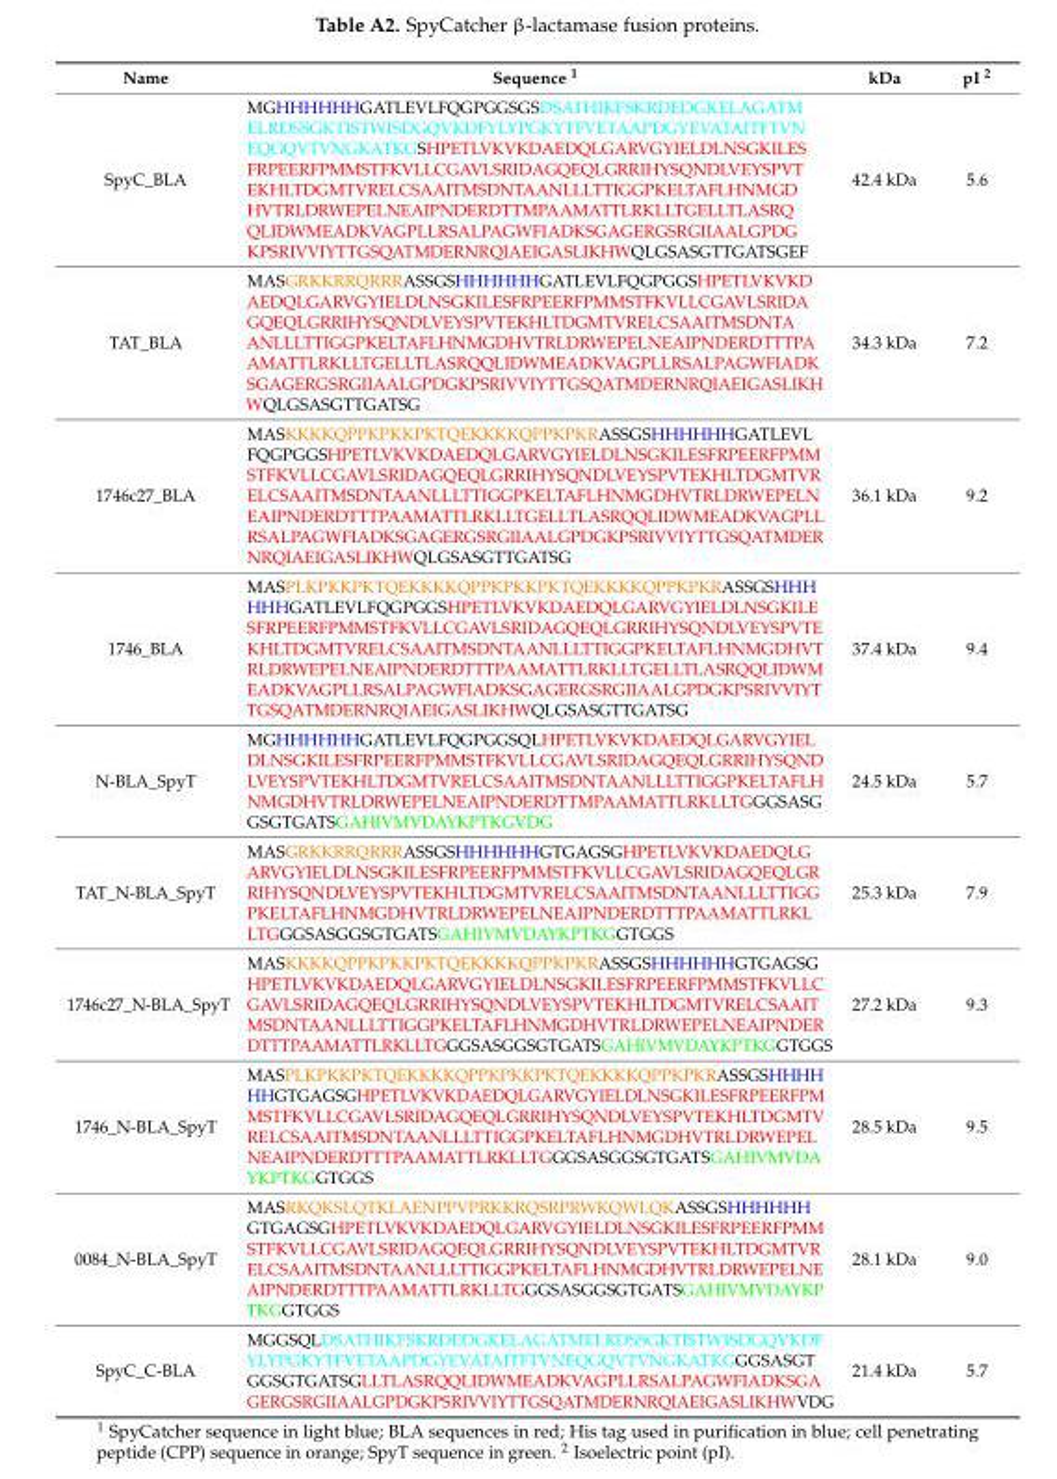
<table><thead><tr><td>Name</td><td>Sequence <sup>1</sup></td><td>kDa</td><td>pI <sup>2</sup></td></tr></thead><tbody><tr><td>SpyC_BLA</td><td>MGHHHHHHGATLEVLFQGPGGSGSDSATHIKFSKRDEDGKELAGATM ELRDSSGKTISTWISDGQVKDFYLYPGKYTFVETAAPDGYEVATAITFTVN EQGQVTVNGKATKGSHPETLVKVKDAEDQLGARVGYIELDLNSGKILES FRPEERFPMMSTFKVLLCGAVLSRIDAGQEQLGRRIHYSQNDLVEYSPVT EKHLTDGMTVRELCSAAITMSDNTAANLLLTTIGGPKELTAFLHNMGD HVTRLDRWEPELNEAIPNDERDTTMPAAMATTLRKLLTGELLTLASRQ QLIDWMEADKVAGPLLRSALPAGWFIADKSGAGERGSRGIIAALGPDG KPSRIVVIYTTGSQATMDERNRQIAEIGASLIKHWQLGSASGTTGATSGEF</td><td>42.4 kDa</td><td>5.6</td></tr><tr><td>TAT_BLA</td><td>MASGRKKRRQRRRASSGSHHHHHHGATLEVLFQGPGGSHPETLVKVKD AEDQLGARVGYIELDLNSGKILESFRPEERFPMMSTFKVLLCGAVLSRIDA GQEQLGRRIHYSQNDLVEYSPVTEKHLTDGMTVRELCSAAITMSDNTA ANLLLTTIGGPKELTAFLHNMGDHVTRLDRWEPELNEAIPNDERDTTTPA AMATTLRKLLTGELLTLASRQQLIDWMEADKVAGPLLRSALPAGWFIADK SGAGERGSRGIIAALGPDGKPSRIVVIYTTGSQATMDERNRQIAEIGASLIKH WQLGSASGTTGATSG</td><td>34.3 kDa</td><td>7.2</td></tr><tr><td>1746c27_BLA</td><td>MASKKKKQPPKPKKPKTQEKKKKQPPKPKRASSGSHHHHHHGATLEVL FQGPGGSHPETLVKVKDAEDQLGARVGYIELDLNSGKILESFRPEERFPMM STFKVLLCGAVLSRIDAGQEQLGRRIHYSQNDLVEYSPVTEKHLTDGMTVR ELCSAAITMSDNTAANLLLTTIGGPKELTAFLHNMGDHVTRLDRWEPELN EAIPNDERDTTTPAAMATTLRKLLTGELLTLASRQQLIDWMEADKVAGPLL RSALPAGWFIADKSGAGERGSRGIIAALGPDGKPSRIVVIYTTGSQATMDER NRQIAEIGASLIKHWQLGSASGTTGATSG</td><td>36.1 kDa</td><td>9.2</td></tr><tr><td>1746_BLA</td><td>MASPLKPKKPKTQEKKKKQPPKPKKPKTQEKKKKQPPKPKRASSGSHHH HHHGATLEVLFQGPGGSHPETLVKVKDAEDQLGARVGYIELDLNSGKILE SFRPEERFPMMSTFKVLLCGAVLSRIDAGQEQLGRRIHYSQNDLVEYSPVTE KHLTDGMTVRELCSAAITMSDNTAANLLLTTIGGPKELTAFLHNMGDHVT RLDRWEPELNEAIPNDERDTTTPAAMATTLRKLLTGELLTLASRQQLIDWM EADKVAGPLLRSALPAGWFIADKSGAGERGSRGIIAALGPDGKPSRIVVIYT TGSQATMDERNRQIAEIGASLIKHWQLGSASGTTGATSG</td><td>37.4 kDa</td><td>9.4</td></tr><tr><td>N-BLA_SpyT</td><td>MGHHHHHHGATLEVLFQGPGGSQLHPETLVKVKDAEDQLGARVGYIEL DLNSGKILESFRPEERFPMMSTFKVLLCGAVLSRIDAGQEQLGRRIHYSQND LVEYSPVTEKHLTDGMTVRELCSAAITMSDNTAANLLLTTIGGPKELTAFLH NMGDHVTRLDRWEPELNEAIPNDERDTTMPAAMATTLRKLLTGGGSASG GSGTGATSGAHIVMVDAYKPTKGVDG</td><td>24.5 kDa</td><td>5.7</td></tr><tr><td>TAT_N-BLA_SpyT</td><td>MASGRKKRRQRRRASSGSHHHHHHGTGAGSGHPETLVKVKDAEDQLG ARVGYIELDLNSGKILESFRPEERFPMMSTFKVLLCGAVLSRIDAGQEQLGR RIHYSQNDLVEYSPVTEKHLTDGMTVRELCSAAITMSDNTAANLLLTTIGG PKELTAFLHNMGDHVTRLDRWEPELNEAIPNDERDTTTPAAMATTLRKL LTGGGSASGGSGTGATSGAHIVMVDAYKPTKGGTGGS</td><td>25.3 kDa</td><td>7.9</td></tr><tr><td>1746c27_N-BLA_SpyT</td><td>MASKKKKQPPKPKKPKTQEKKKKQPPKPKRASSGSHHHHHHGTGAGSG HPETLVKVKDAEDQLGARVGYIELDLNSGKILESFRPEERFPMMSTFKVLLC GAVLSRIDAGQEQLGRRIHYSQNDLVEYSPVTEKHLTDGMTVRELCSAAIT MSDNTAANLLLTTIGGPKELTAFLHNMGDHVTRLDRWEPELNEAIPNDER DTTTPAAMATTLRKLLTGGGSASGGSGTGATSGAHIVMVDAYKPTKGGTGGS</td><td>27.2 kDa</td><td>9.3</td></tr><tr><td>1746_N-BLA_SpyT</td><td>MASPLKPKKPKTQEKKKKQPPKPKKPKTQEKKKKQPPKPKRASSGSHHHH HHGTGAGSGHPETLVKVKDAEDQLGARVGYIELDLNSGKILESFRPEERFPM MSTFKVLLCGAVLSRIDAGQEQLGRRIHYSQNDLVEYSPVTEKHLTDGMTV RELCSAAITMSDNTAANLLLTTIGGPKELTAFLHNMGDHVTRLDRWEPEL NEAIPNDERDTTTPAAMATTLRKLLTGGGSASGGSGTGATSGAHIVMVDA YKPTKGGTGGS</td><td>28.5 kDa</td><td>9.5</td></tr><tr><td>0084_N-BLA_SpyT</td><td>MASRKQKSLQTKLAENPPVPRKKRQSRPRWKQWLQKASSGSHHHHHH GTGAGSGHPETLVKVKDAEDQLGARVGYIELDLNSGKILESFRPEERFPMM STFKVLLCGAVLSRIDAGQEQLGRRIHYSQNDLVEYSPVTEKHLTDGMTVR ELCSAAITMSDNTAANLLLTTIGGPKELTAFLHNMGDHVTRLDRWEPELNE AIPNDERDTTTPAAMATTLRKLLTGGGSASGGSGTGATSGAHIVMVDAYKP TKGGTGGS</td><td>28.1 kDa</td><td>9.0</td></tr><tr><td>SpyC_C-BLA</td><td>MGGSQLDSATHIKFSKRDEDGKELAGATMELRDSSGKTISTWISDGQVKDF YLYPGKYTFVETAAPDGYEVATAITFTVNEQGQVTVNGKATKGGGSASGT GGSGTGATSGLLTLASRQQLIDWMEADKVAGPLLRSALPAGWFIADKSGA GERGSRGIIAALGPDGKPSRIVVIYTTGSQATMDERNRQIAEIGASLIKHWVDG</td><td>21.4 kDa</td><td>5.7</td></tr></tbody></table>